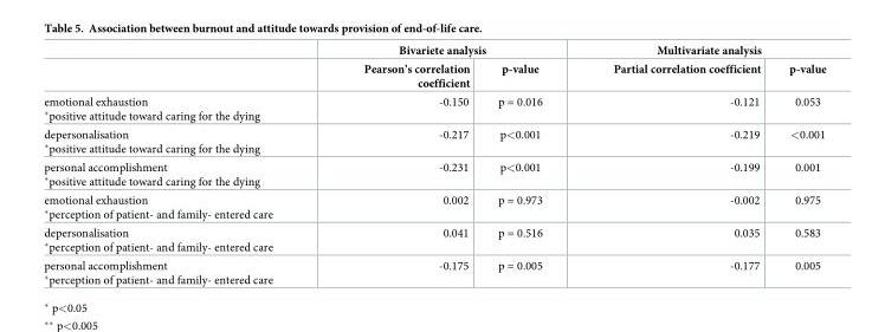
<table><thead><tr><td rowspan="2"></td><td colspan="2">Bivariete analysis</td><td colspan="2">Multivariate analysis</td></tr><tr><td>Pearson’s correlation coefficient</td><td>p-value</td><td>Partial correlation coefficient</td><td>p-value</td></tr></thead><tbody><tr><td>emotional exhaustion *positive attitude toward caring for the dying</td><td>-0.150</td><td>p = 0.016</td><td>-0.121</td><td>0.053</td></tr><tr><td>depersonalisation *positive attitude toward caring for the dying</td><td>-0.217</td><td>p&lt;0.001</td><td>-0.219</td><td>&lt;0.001</td></tr><tr><td>personal accomplishment *positive attitude toward caring for the dying</td><td>-0.231</td><td>p&lt;0.001</td><td>-0.199</td><td>0.001</td></tr><tr><td>emotional exhaustion *perception of patient- and family- entered care</td><td>0.002</td><td>p = 0.973</td><td>-0.002</td><td>0.975</td></tr><tr><td>depersonalisation *perception of patient- and family- entered care</td><td>0.041</td><td>p = 0.516</td><td>0.035</td><td>0.583</td></tr><tr><td>personal accomplishment *perception of patient- and family- entered care</td><td>-0.175</td><td>p = 0.005</td><td>-0.177</td><td>0.005</td></tr></tbody></table>